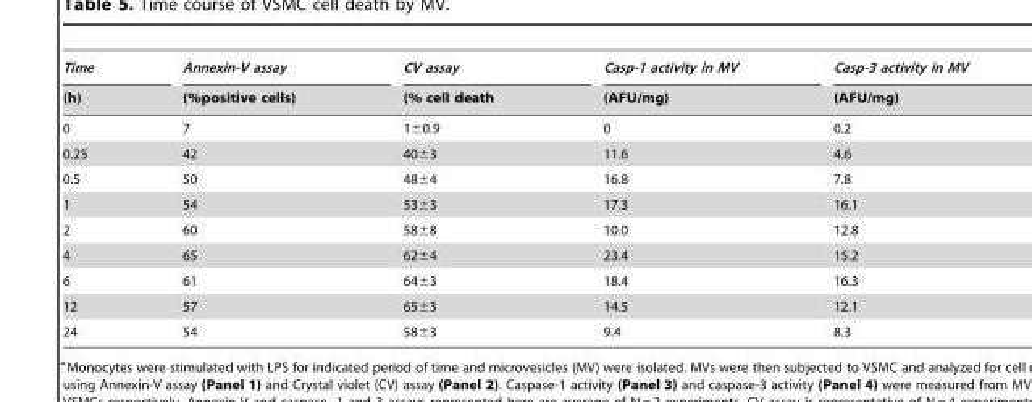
<table><thead><tr><td rowspan="2">Time (h)</td><td rowspan="2">Annexin-V assay (%positive cells)</td><td rowspan="2">CV assay (% cell death</td><td rowspan="2">Casp-1 activity in MV (AFU/mg)</td><td rowspan="2">Casp-3 activity in MV (AFU/mg)</td></tr><tr></tr></thead><tbody><tr><td>0</td><td>7</td><td>1±0.9</td><td>0</td><td>0.2</td></tr><tr><td>0.25</td><td>42</td><td>40±3</td><td>11.6</td><td>4.6</td></tr><tr><td>0.5</td><td>50</td><td>48±4</td><td>16.8</td><td>7.8</td></tr><tr><td>1</td><td>54</td><td>53±3</td><td>17.3</td><td>16.1</td></tr><tr><td>2</td><td>60</td><td>58±8</td><td>10.0</td><td>12.8</td></tr><tr><td>4</td><td>65</td><td>62±4</td><td>23.4</td><td>15.2</td></tr><tr><td>6</td><td>61</td><td>64±3</td><td>18.4</td><td>16.3</td></tr><tr><td>12</td><td>57</td><td>65±3</td><td>14.5</td><td>12.1</td></tr><tr><td>24</td><td>54</td><td>58±3</td><td>9.4</td><td>8.3</td></tr></tbody></table>